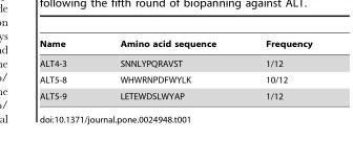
<table><thead><tr><td>Name</td><td>Amino acid sequence</td><td>Frequency</td></tr></thead><tbody><tr><td>ALT4-3</td><td>SNNLYPQRAVST</td><td>1/12</td></tr><tr><td>ALT5-8</td><td>WHWRNPDFWYLK</td><td>10/12</td></tr><tr><td>ALT5-9</td><td>LETEWDSLWYAP</td><td>1/12</td></tr></tbody></table>